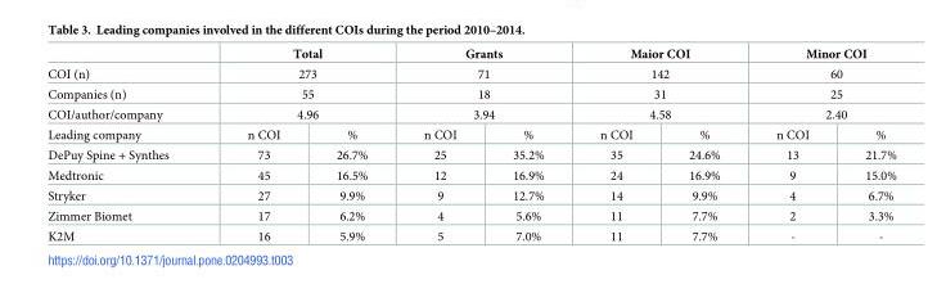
<table><thead><tr><td></td><td colspan="2">Total</td><td colspan="2">Grants</td><td colspan="2">Maior COI</td><td colspan="2">Minor COI</td></tr></thead><tbody><tr><td>COI (n)</td><td colspan="2">273</td><td colspan="2">71</td><td colspan="2">142</td><td colspan="2">60</td></tr><tr><td>Companies (n)</td><td colspan="2">55</td><td colspan="2">18</td><td colspan="2">31</td><td colspan="2">25</td></tr><tr><td>COI/author/company</td><td colspan="2">4.96</td><td colspan="2">3.94</td><td colspan="2">4.58</td><td colspan="2">2.40</td></tr><tr><td>Leading company</td><td>n COI</td><td>%</td><td>n COI</td><td>%</td><td>n COI</td><td>%</td><td>n COI</td><td>%</td></tr><tr><td>DePuy Spine + Synthes</td><td>73</td><td>26.7%</td><td>25</td><td>35.2%</td><td>35</td><td>24.6%</td><td>13</td><td>21.7%</td></tr><tr><td>Medtronic</td><td>45</td><td>16.5%</td><td>12</td><td>16.9%</td><td>24</td><td>16.9%</td><td>9</td><td>15.0%</td></tr><tr><td>Stryker</td><td>27</td><td>9.9%</td><td>9</td><td>12.7%</td><td>14</td><td>9.9%</td><td>4</td><td>6.7%</td></tr><tr><td>Zimmer Biomet</td><td>17</td><td>6.2%</td><td>4</td><td>5.6%</td><td>11</td><td>7.7%</td><td>2</td><td>3.3%</td></tr><tr><td>K2M</td><td>16</td><td>5.9%</td><td>5</td><td>7.0%</td><td>11</td><td>7.7%</td><td>-</td><td>-</td></tr></tbody></table>